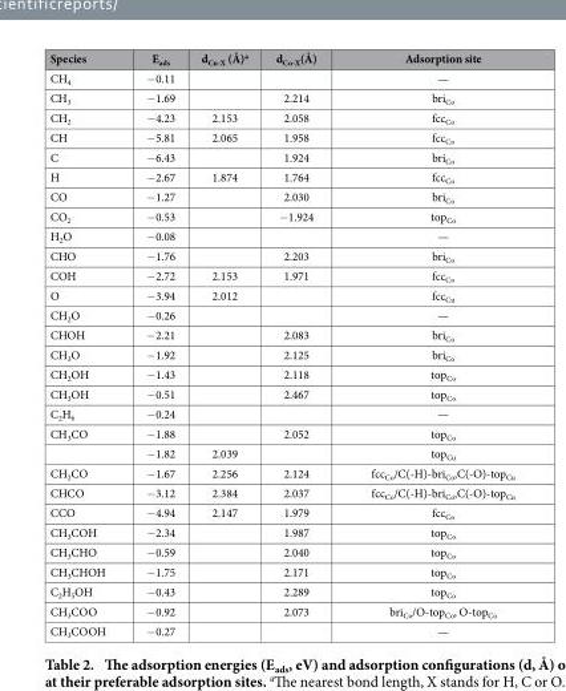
<table><thead><tr><td>Species</td><td>E<sub>ads</sub></td><td>d<sub>Cu-X</sub> (Å)<sup>a</sup></td><td>d<sub>Co-X</sub>(Å)</td><td>Adsorption site</td></tr></thead><tbody><tr><td>CH<sub>4</sub></td><td>− 0.11</td><td></td><td></td><td>—</td></tr><tr><td>CH<sub>3</sub></td><td>− 1.69</td><td></td><td>2.214</td><td>bri<sub>Co</sub></td></tr><tr><td>CH<sub>2</sub></td><td>− 4.23</td><td>2.153</td><td>2.058</td><td>fcc<sub>Co</sub></td></tr><tr><td>CH</td><td>− 5.81</td><td>2.065</td><td>1.958</td><td>fcc<sub>Co</sub></td></tr><tr><td>C</td><td>− 6.43</td><td></td><td>1.924</td><td>bri<sub>Co</sub></td></tr><tr><td>H</td><td>− 2.67</td><td>1.874</td><td>1.764</td><td>fcc<sub>Co</sub></td></tr><tr><td>CO</td><td>− 1.27</td><td></td><td>2.030</td><td>bri<sub>Co</sub></td></tr><tr><td>CO<sub>2</sub></td><td>− 0.53</td><td></td><td>− 1.924</td><td>top<sub>Co</sub></td></tr><tr><td>H<sub>2</sub>O</td><td>− 0.08</td><td></td><td></td><td>—</td></tr><tr><td>CHO</td><td>− 1.76</td><td></td><td>2.203</td><td>bri<sub>Co</sub></td></tr><tr><td>COH</td><td>− 2.72</td><td>2.153</td><td>1.971</td><td>fcc<sub>Co</sub></td></tr><tr><td>O</td><td>− 3.94</td><td>2.012</td><td></td><td>fcc<sub>Cu</sub></td></tr><tr><td>CH<sub>2</sub>O</td><td>− 0.26</td><td></td><td></td><td>—</td></tr><tr><td>CHOH</td><td>− 2.21</td><td></td><td>2.083</td><td>bri<sub>Co</sub></td></tr><tr><td>CH<sub>3</sub>O</td><td>− 1.92</td><td></td><td>2.125</td><td>bri<sub>Co</sub></td></tr><tr><td>CH<sub>2</sub>OH</td><td>− 1.43</td><td></td><td>2.118</td><td>top<sub>Co</sub></td></tr><tr><td>CH<sub>3</sub>OH</td><td>− 0.51</td><td></td><td>2.467</td><td>top<sub>Co</sub></td></tr><tr><td>C<sub>2</sub>H<sub>6</sub></td><td>− 0.24</td><td></td><td></td><td>—</td></tr><tr><td rowspan="2">CH<sub>3</sub>CO</td><td>− 1.88</td><td></td><td>2.052</td><td>top<sub>Co</sub></td></tr><tr><td>− 1.82</td><td>2.039</td><td></td><td>top<sub>Cu</sub></td></tr><tr><td>CH<sub>2</sub>CO</td><td>− 1.67</td><td>2.256</td><td>2.124</td><td>fcc<sub>Co</sub>/C(-H)-bri<sub>Co</sub>,C(-O)-top<sub>Cu</sub></td></tr><tr><td>CHCO</td><td>− 3.12</td><td>2.384</td><td>2.037</td><td>fcc<sub>Co</sub>/C(-H)-bri<sub>Co</sub>,C(-O)-top<sub>Cu</sub></td></tr><tr><td>CCO</td><td>− 4.94</td><td>2.147</td><td>1.979</td><td>fcc<sub>Co</sub></td></tr><tr><td>CH<sub>3</sub>COH</td><td>− 2.34</td><td></td><td>1.987</td><td>top<sub>Co</sub></td></tr><tr><td>CH<sub>3</sub>CHO</td><td>− 0.59</td><td></td><td>2.040</td><td>top<sub>Co</sub></td></tr><tr><td>CH<sub>3</sub>CHOH</td><td>− 1.75</td><td></td><td>2.171</td><td>top<sub>Co</sub></td></tr><tr><td>C<sub>2</sub>H<sub>5</sub>OH</td><td>− 0.43</td><td></td><td>2.289</td><td>top<sub>Co</sub></td></tr><tr><td>CH<sub>3</sub>COO</td><td>− 0.92</td><td></td><td>2.073</td><td>bri<sub>Co</sub>/O-top<sub>Co</sub>, O-top<sub>Co</sub></td></tr><tr><td>CH<sub>3</sub>COOH</td><td>− 0.27</td><td></td><td></td><td>—</td></tr></tbody></table>